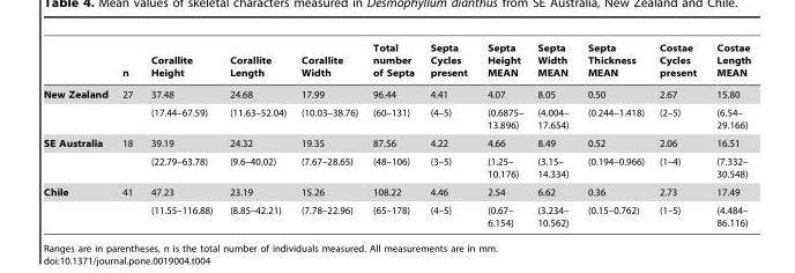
<table><thead><tr><td></td><td>n</td><td>Corallite Height</td><td>Corallite Length</td><td>Corallite Width</td><td>Total number of Septa</td><td>Septa Cycles present</td><td>Septa Height MEAN</td><td>Septa Width MEAN</td><td>Septa Thickness MEAN</td><td>Costae Cycles present</td><td>Costae Length MEAN</td></tr></thead><tbody><tr><td rowspan="2">New Zealand</td><td>27</td><td>37.48</td><td>24.68</td><td>17.99</td><td>96.44</td><td>4.41</td><td>4.07</td><td>8.05</td><td>0.50</td><td>2.67</td><td>15.80</td></tr><tr><td></td><td>(17.44–67.59)</td><td>(11.63–52.04)</td><td>(10.03–38.76)</td><td>(60–131)</td><td>(4–5)</td><td>(0.6875– 13.896)</td><td>(4.004– 17.654)</td><td>(0.244–1.418)</td><td>(2–5)</td><td>(6.54– 29.166)</td></tr><tr><td rowspan="2">SE Australia</td><td>18</td><td>39.19</td><td>24.32</td><td>19.35</td><td>87.56</td><td>4.22</td><td>4.66</td><td>8.49</td><td>0.52</td><td>2.06</td><td>16.51</td></tr><tr><td></td><td>(22.79–63.78)</td><td>(9.6–40.02)</td><td>(7.67–28.65)</td><td>(48–106)</td><td>(3–5)</td><td>(1.25– 10.176)</td><td>(3.15– 14.334)</td><td>(0.194–0.966)</td><td>(1–4)</td><td>(7.332– 30.548)</td></tr><tr><td rowspan="2">Chile</td><td>41</td><td>47.23</td><td>23.19</td><td>15.26</td><td>108.22</td><td>4.46</td><td>2.54</td><td>6.62</td><td>0.36</td><td>2.73</td><td>17.49</td></tr><tr><td></td><td>(11.55–116.88)</td><td>(8.85–42.21)</td><td>(7.78–22.96)</td><td>(65–178)</td><td>(4–5)</td><td>(0.67– 6.154)</td><td>(3.234– 10.562)</td><td>(0.15–0.762)</td><td>(1–5)</td><td>(4.484– 86.116)</td></tr></tbody></table>